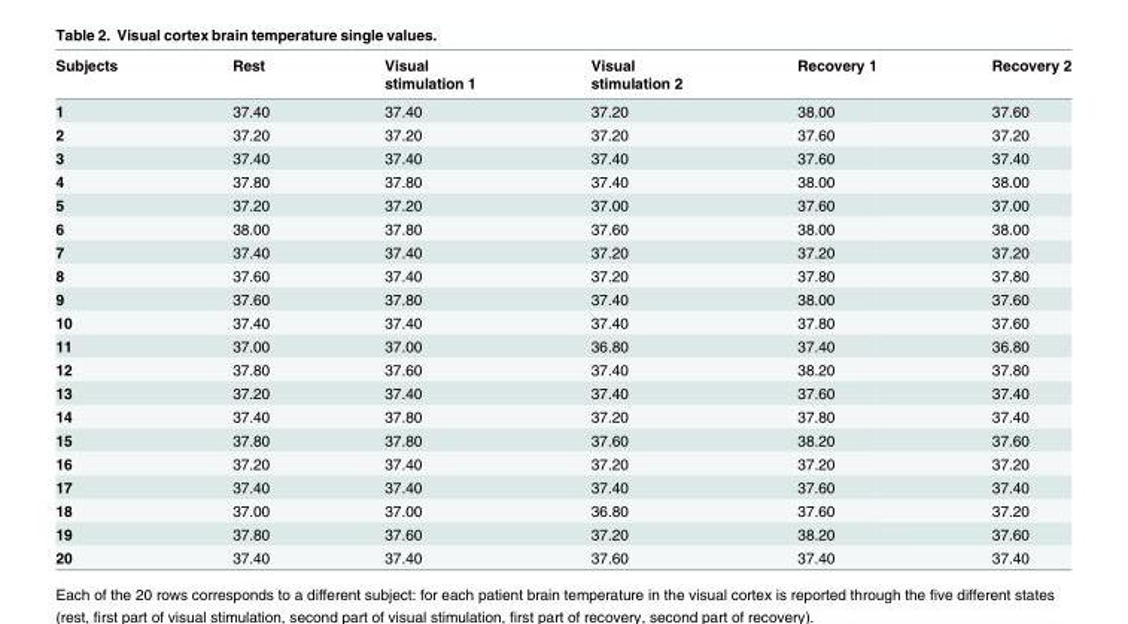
<table><thead><tr><td rowspan="2">Subjects</td><td rowspan="2">Rest</td><td rowspan="2">Visual stimulation 1</td><td rowspan="2">Visual stimulation 2</td><td rowspan="2">Recovery 1</td><td rowspan="2">Recovery 2</td></tr><tr></tr></thead><tbody><tr><td>1</td><td>37.40</td><td>37.40</td><td>37.20</td><td>38.00</td><td>37.60</td></tr><tr><td>2</td><td>37.20</td><td>37.20</td><td>37.20</td><td>37.60</td><td>37.20</td></tr><tr><td>3</td><td>37.40</td><td>37.40</td><td>37.40</td><td>37.60</td><td>37.40</td></tr><tr><td>4</td><td>37.80</td><td>37.80</td><td>37.40</td><td>38.00</td><td>38.00</td></tr><tr><td>5</td><td>37.20</td><td>37.20</td><td>37.00</td><td>37.60</td><td>37.00</td></tr><tr><td>6</td><td>38.00</td><td>37.80</td><td>37.60</td><td>38.00</td><td>38.00</td></tr><tr><td>7</td><td>37.40</td><td>37.40</td><td>37.20</td><td>37.20</td><td>37.20</td></tr><tr><td>8</td><td>37.60</td><td>37.40</td><td>37.20</td><td>37.80</td><td>37.80</td></tr><tr><td>9</td><td>37.60</td><td>37.80</td><td>37.40</td><td>38.00</td><td>37.60</td></tr><tr><td>10</td><td>37.40</td><td>37.40</td><td>37.40</td><td>37.80</td><td>37.60</td></tr><tr><td>11</td><td>37.00</td><td>37.00</td><td>36.80</td><td>37.40</td><td>36.80</td></tr><tr><td>12</td><td>37.80</td><td>37.60</td><td>37.40</td><td>38.20</td><td>37.80</td></tr><tr><td>13</td><td>37.20</td><td>37.40</td><td>37.40</td><td>37.60</td><td>37.40</td></tr><tr><td>14</td><td>37.40</td><td>37.80</td><td>37.20</td><td>37.80</td><td>37.40</td></tr><tr><td>15</td><td>37.80</td><td>37.80</td><td>37.60</td><td>38.20</td><td>37.60</td></tr><tr><td>16</td><td>37.20</td><td>37.40</td><td>37.20</td><td>37.20</td><td>37.20</td></tr><tr><td>17</td><td>37.40</td><td>37.40</td><td>37.40</td><td>37.60</td><td>37.40</td></tr><tr><td>18</td><td>37.00</td><td>37.00</td><td>36.80</td><td>37.60</td><td>37.20</td></tr><tr><td>19</td><td>37.80</td><td>37.60</td><td>37.20</td><td>38.20</td><td>37.60</td></tr><tr><td>20</td><td>37.40</td><td>37.40</td><td>37.60</td><td>37.40</td><td>37.40</td></tr></tbody></table>